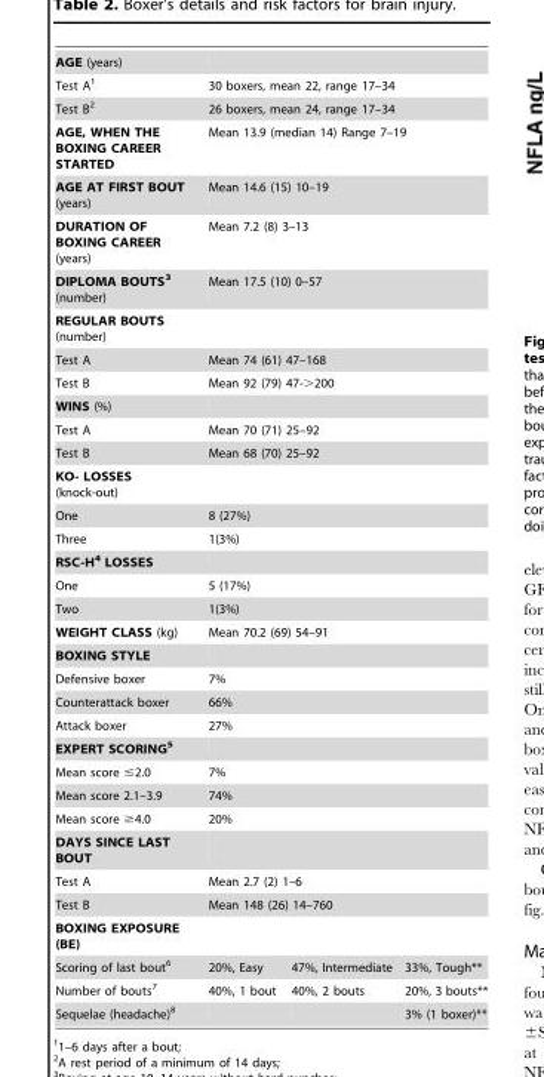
<table><tbody><tr><td colspan="4">AGE (years)</td></tr><tr><td>Test A<sup>1</sup></td><td colspan="3">30 boxers, mean 22, range 17–34</td></tr><tr><td>Test B<sup>2</sup></td><td colspan="3">26 boxers, mean 24, range 17–34</td></tr><tr><td>AGE, WHEN THE BOXING CAREER STARTED</td><td colspan="3">Mean 13.9 (median 14) Range 7–19</td></tr><tr><td>AGE AT FIRST BOUT (years)</td><td colspan="3">Mean 14.6 (15) 10–19</td></tr><tr><td>DURATION OF BOXING CAREER (years)</td><td colspan="3">Mean 7.2 (8) 3–13</td></tr><tr><td>DIPLOMA BOUTS3 (number)</td><td colspan="3">Mean 17.5 (10) 0–57</td></tr><tr><td colspan="4">REGULAR BOUTS (number)</td></tr><tr><td>Test A</td><td colspan="3">Mean 74 (61) 47–168</td></tr><tr><td>Test B</td><td colspan="3">Mean 92 (79) 47-&gt;200</td></tr><tr><td colspan="4">WINS (%)</td></tr><tr><td>Test A</td><td colspan="3">Mean 70 (71) 25–92</td></tr><tr><td>Test B</td><td colspan="3">Mean 68 (70) 25–92</td></tr><tr><td colspan="4">KO- LOSSES (knock-out)</td></tr><tr><td>One</td><td colspan="3">8 (27%)</td></tr><tr><td>Three</td><td colspan="3">1(3%)</td></tr><tr><td colspan="4">RSC-H4 LOSSES</td></tr><tr><td>One</td><td colspan="3">5 (17%)</td></tr><tr><td>Two</td><td colspan="3">1(3%)</td></tr><tr><td>WEIGHT CLASS (kg)</td><td colspan="3">Mean 70.2 (69) 54–91</td></tr><tr><td colspan="4">BOXING STYLE</td></tr><tr><td>Defensive boxer</td><td colspan="3">7%</td></tr><tr><td>Counterattack boxer</td><td colspan="3">66%</td></tr><tr><td>Attack boxer</td><td colspan="3">27%</td></tr><tr><td colspan="4">EXPERT SCORING5</td></tr><tr><td>Mean score ≤2.0</td><td colspan="3">7%</td></tr><tr><td>Mean score 2.1–3.9</td><td colspan="3">74%</td></tr><tr><td>Mean score ≥4.0</td><td colspan="3">20%</td></tr><tr><td colspan="4">DAYS SINCE LAST BOUT</td></tr><tr><td>Test A</td><td colspan="3">Mean 2.7 (2) 1–6</td></tr><tr><td>Test B</td><td colspan="3">Mean 148 (26) 14–760</td></tr><tr><td colspan="4">BOXING EXPOSURE (BE)</td></tr><tr><td>Scoring of last bout<sup>6</sup></td><td>20%, Easy</td><td>47%, Intermediate</td><td>33%, Tough**</td></tr><tr><td>Number of bouts<sup>7</sup></td><td>40%, 1 bout</td><td>40%, 2 bouts</td><td>20%, 3 bouts**</td></tr><tr><td>Sequelae (headache)<sup>8</sup></td><td></td><td></td><td>3% (1 boxer)**</td></tr></tbody></table>